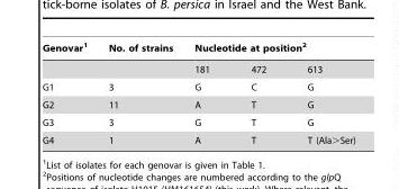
<table><thead><tr><td rowspan="2">Genovar<sup>1</sup></td><td rowspan="2">No. of strains</td><td colspan="3">Nucleotide at position<sup>2</sup></td></tr><tr><td>181</td><td>472</td><td>613</td></tr></thead><tbody><tr><td>G1</td><td>3</td><td>G</td><td>C</td><td>G</td></tr><tr><td>G2</td><td>11</td><td>A</td><td>T</td><td>G</td></tr><tr><td>G3</td><td>3</td><td>G</td><td>T</td><td>G</td></tr><tr><td>G4</td><td>1</td><td>A</td><td>T</td><td>T (Ala&gt;Ser)</td></tr></tbody></table>